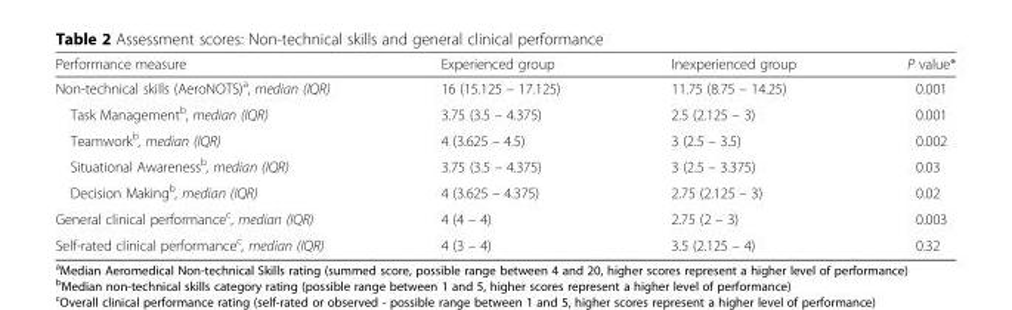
<table><thead><tr><td>Performance measure</td><td>Experienced group</td><td>Inexperienced group</td><td>P value*</td></tr></thead><tbody><tr><td>Non-technical skills (AeroNOTS)<sup>a</sup>, median (IQR)</td><td>16 (15.125 – 17.125)</td><td>11.75 (8.75 – 14.25)</td><td>0.001</td></tr><tr><td>Task Management<sup>b</sup>, median (IQR)</td><td>3.75 (3.5 – 4.375)</td><td>2.5 (2.125 – 3)</td><td>0.001</td></tr><tr><td>Teamwork<sup>b</sup>, median (IQR)</td><td>4 (3.625 – 4.5)</td><td>3 (2.5 – 3.5)</td><td>0.002</td></tr><tr><td>Situational Awareness<sup>b</sup>, median (IQR)</td><td>3.75 (3.5 – 4.375)</td><td>3 (2.5 – 3.375)</td><td>0.03</td></tr><tr><td>Decision Making<sup>b</sup>, median (IQR)</td><td>4 (3.625 – 4.375)</td><td>2.75 (2.125 – 3)</td><td>0.02</td></tr><tr><td>General clinical performance<sup>c</sup>, median (IQR)</td><td>4 (4 – 4)</td><td>2.75 (2 – 3)</td><td>0.003</td></tr><tr><td>Self-rated clinical performance<sup>c</sup>, median (IQR)</td><td>4 (3 – 4)</td><td>3.5 (2.125 – 4)</td><td>0.32</td></tr></tbody></table>